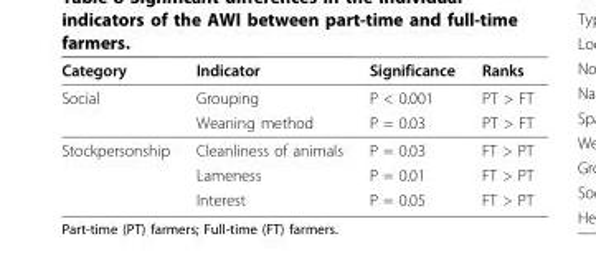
<table><thead><tr><td>Category</td><td>Indicator</td><td>Significance</td><td>Ranks</td></tr></thead><tbody><tr><td rowspan="2">Social</td><td>Grouping</td><td>P &lt; 0.001</td><td>PT &gt; FT</td></tr><tr><td>Weaning method</td><td>P = 0.03</td><td>PT &gt; FT</td></tr><tr><td rowspan="3">Stockpersonship</td><td>Cleanliness of animals</td><td>P = 0.03</td><td>FT &gt; PT</td></tr><tr><td>Lameness</td><td>P = 0.01</td><td>FT &gt; PT</td></tr><tr><td>Interest</td><td>P = 0.05</td><td>FT &gt; PT</td></tr></tbody></table>